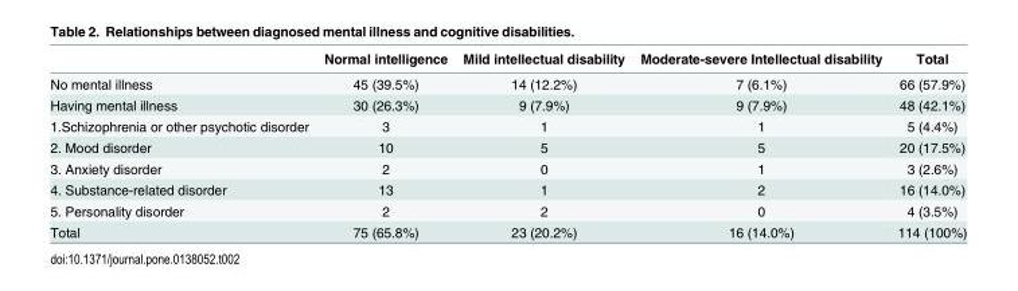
<table><thead><tr><td></td><td>Normal intelligence</td><td>Mild intellectual disability</td><td>Moderate-severe Intellectual disability</td><td>Total</td></tr></thead><tbody><tr><td>No mental illness</td><td>45 (39.5%)</td><td>14 (12.2%)</td><td>7 (6.1%)</td><td>66 (57.9%)</td></tr><tr><td>Having mental illness</td><td>30 (26.3%)</td><td>9 (7.9%)</td><td>9 (7.9%)</td><td>48 (42.1%)</td></tr><tr><td>1.Schizophrenia or other psychotic disorder</td><td>3</td><td>1</td><td>1</td><td>5 (4.4%)</td></tr><tr><td>2. Mood disorder</td><td>10</td><td>5</td><td>5</td><td>20 (17.5%)</td></tr><tr><td>3. Anxiety disorder</td><td>2</td><td>0</td><td>1</td><td>3 (2.6%)</td></tr><tr><td>4. Substance-related disorder</td><td>13</td><td>1</td><td>2</td><td>16 (14.0%)</td></tr><tr><td>5. Personality disorder</td><td>2</td><td>2</td><td>0</td><td>4 (3.5%)</td></tr><tr><td>Total</td><td>75 (65.8%)</td><td>23 (20.2%)</td><td>16 (14.0%)</td><td>114 (100%)</td></tr></tbody></table>